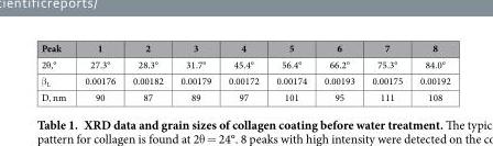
<table><thead><tr><td>Peak</td><td>1</td><td>2</td><td>3</td><td>4</td><td>5</td><td>6</td><td>7</td><td>8</td></tr></thead><tbody><tr><td>2θ ,°</td><td>27.3°</td><td>28.3°</td><td>31.7°</td><td>45.4°</td><td>56.4°</td><td>66.2°</td><td>75.3°</td><td>84.0°</td></tr><tr><td>β <sub>L</sub></td><td>0.00176</td><td>0.00182</td><td>0.00179</td><td>0.00172</td><td>0.00174</td><td>0.00193</td><td>0.00175</td><td>0.00192</td></tr><tr><td>D, nm</td><td>90</td><td>87</td><td>89</td><td>97</td><td>101</td><td>95</td><td>111</td><td>108</td></tr></tbody></table>